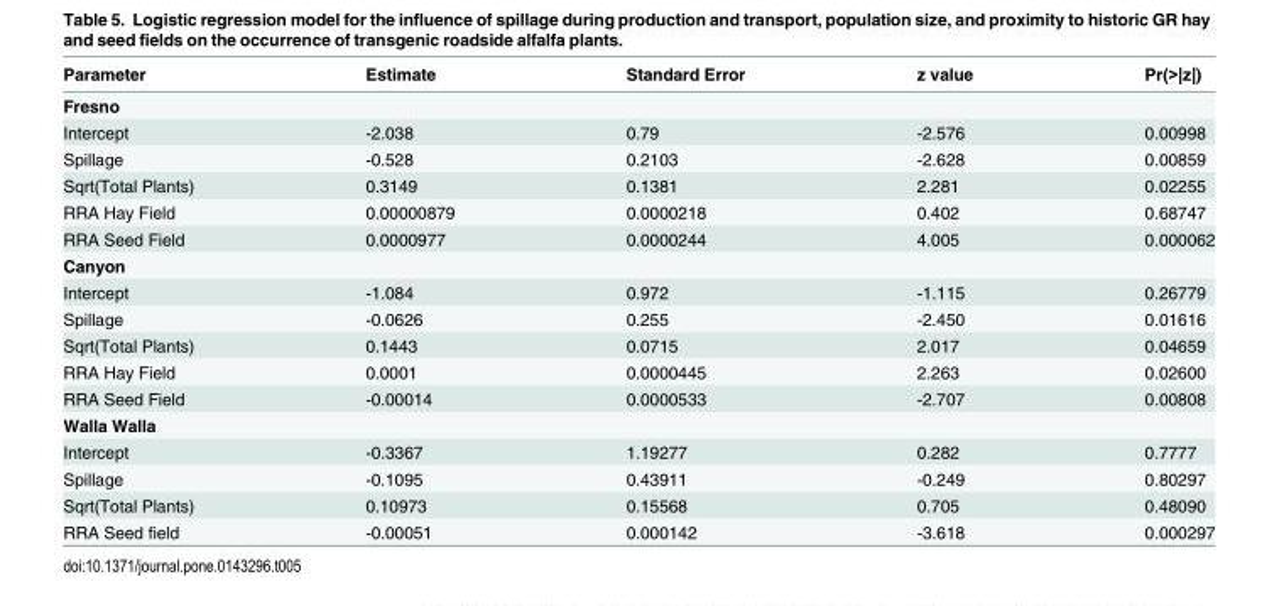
<table><thead><tr><td>Parameter</td><td>Estimate</td><td>Standard Error</td><td>z value</td><td>Pr(&gt;|z|)</td></tr></thead><tbody><tr><td colspan="5">Fresno</td></tr><tr><td>Intercept</td><td>-2.038</td><td>0.79</td><td>-2.576</td><td>0.00998</td></tr><tr><td>Spillage</td><td>-0.528</td><td>0.2103</td><td>-2.628</td><td>0.00859</td></tr><tr><td>Sqrt(Total Plants)</td><td>0.3149</td><td>0.1381</td><td>2.281</td><td>0.02255</td></tr><tr><td>RRA Hay Field</td><td>0.00000879</td><td>0.0000218</td><td>0.402</td><td>0.68747</td></tr><tr><td>RRA Seed Field</td><td>0.0000977</td><td>0.0000244</td><td>4.005</td><td>0.000062</td></tr><tr><td colspan="5">Canyon</td></tr><tr><td>Intercept</td><td>-1.084</td><td>0.972</td><td>-1.115</td><td>0.26779</td></tr><tr><td>Spillage</td><td>-0.0626</td><td>0.255</td><td>-2.450</td><td>0.01616</td></tr><tr><td>Sqrt(Total Plants)</td><td>0.1443</td><td>0.0715</td><td>2.017</td><td>0.04659</td></tr><tr><td>RRA Hay Field</td><td>0.0001</td><td>0.0000445</td><td>2.263</td><td>0.02600</td></tr><tr><td>RRA Seed Field</td><td>-0.00014</td><td>0.0000533</td><td>-2.707</td><td>0.00808</td></tr><tr><td colspan="5">Walla Walla</td></tr><tr><td>Intercept</td><td>-0.3367</td><td>1.19277</td><td>0.282</td><td>0.7777</td></tr><tr><td>Spillage</td><td>-0.1095</td><td>0.43911</td><td>-0.249</td><td>0.80297</td></tr><tr><td>Sqrt(Total Plants)</td><td>0.10973</td><td>0.15568</td><td>0.705</td><td>0.48090</td></tr><tr><td>RRA Seed field</td><td>-0.00051</td><td>0.000142</td><td>-3.618</td><td>0.000297</td></tr></tbody></table>